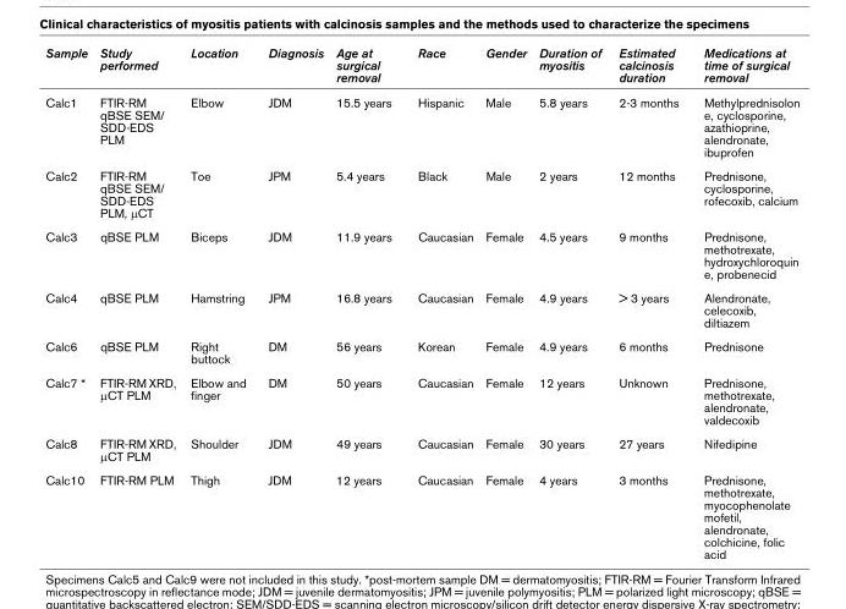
<table><thead><tr><td>Sample</td><td>Study performed</td><td>Location</td><td>Diagnosis</td><td>Age at surgical removal</td><td>Race</td><td>Gender</td><td>Duration of myositis</td><td>Estimated calcinosis duration</td><td>Medications at time of surgical removal</td></tr></thead><tbody><tr><td>Calc1</td><td>FTIR-RM qBSE SEM/ SDD-EDS PLM</td><td>Elbow</td><td>JDM</td><td>15.5 years</td><td>Hispanic</td><td>Male</td><td>5.8 years</td><td>2-3 months</td><td>Methylprednisolon e, cyclosporine, azathioprine, alendronate, ibuprofen</td></tr><tr><td>Calc2</td><td>FTIR-RM qBSE SEM/ SDD-EDS PLM, μCT</td><td>Toe</td><td>JPM</td><td>5.4 years</td><td>Black</td><td>Male</td><td>2 years</td><td>12 months</td><td>Prednisone, cyclosporine, rofecoxib, calcium</td></tr><tr><td>Calc3</td><td>qBSE PLM</td><td>Biceps</td><td>JDM</td><td>11.9 years</td><td>Caucasian</td><td>Female</td><td>4.5 years</td><td>9 months</td><td>Prednisone, methotrexate, hydroxychloroquin e, probenecid</td></tr><tr><td>Calc4</td><td>qBSE PLM</td><td>Hamstring</td><td>JPM</td><td>16.8 years</td><td>Caucasian</td><td>Female</td><td>4.9 years</td><td>&gt; 3 years</td><td>Alendronate, celecoxib, diltiazem</td></tr><tr><td>Calc6</td><td>qBSE PLM</td><td>Right buttock</td><td>DM</td><td>56 years</td><td>Korean</td><td>Female</td><td>4.9 years</td><td>6 months</td><td>Prednisone</td></tr><tr><td>Calc7 *</td><td>FTIR-RM XRD, μCT PLM</td><td>Elbow and finger</td><td>DM</td><td>50 years</td><td>Caucasian</td><td>Female</td><td>12 years</td><td>Unknown</td><td>Prednisone, methotrexate, alendronate, valdecoxib</td></tr><tr><td>Calc8</td><td>FTIR-RM XRD, μCT PLM</td><td>Shoulder</td><td>JDM</td><td>49 years</td><td>Caucasian</td><td>Female</td><td>30 years</td><td>27 years</td><td>Nifedipine</td></tr><tr><td>Calc10</td><td>FTIR-RM PLM</td><td>Thigh</td><td>JDM</td><td>12 years</td><td>Caucasian</td><td>Female</td><td>4 years</td><td>3 months</td><td>Prednisone, methotrexate, myocophenolate mofetil, alendronate, colchicine, folic acid</td></tr></tbody></table>